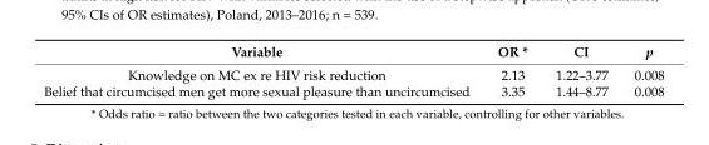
<table><thead><tr><td>Variable</td><td>OR *</td><td>CI</td><td>p</td></tr></thead><tbody><tr><td>Knowledge on MC ex re HIV risk reduction</td><td>2.13</td><td>1.22–3.77</td><td>0.008</td></tr><tr><td>Belief that circumcised men get more sexual pleasure than uncircumcised</td><td>3.35</td><td>1.44–8.77</td><td>0.008</td></tr></tbody></table>